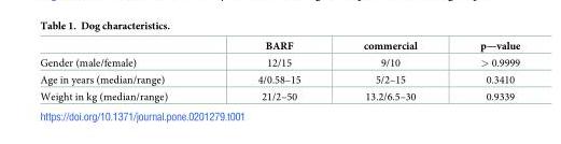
<table><thead><tr><td></td><td>BARF</td><td>commercial</td><td>p—value</td></tr></thead><tbody><tr><td>Gender (male/female)</td><td>12/15</td><td>9/10</td><td>&gt; 0.9999</td></tr><tr><td>Age in years (median/range)</td><td>4/0.58–15</td><td>5/2–15</td><td>0.3410</td></tr><tr><td>Weight in kg (median/range)</td><td>21/2–50</td><td>13.2/6.5–30</td><td>0.9339</td></tr></tbody></table>